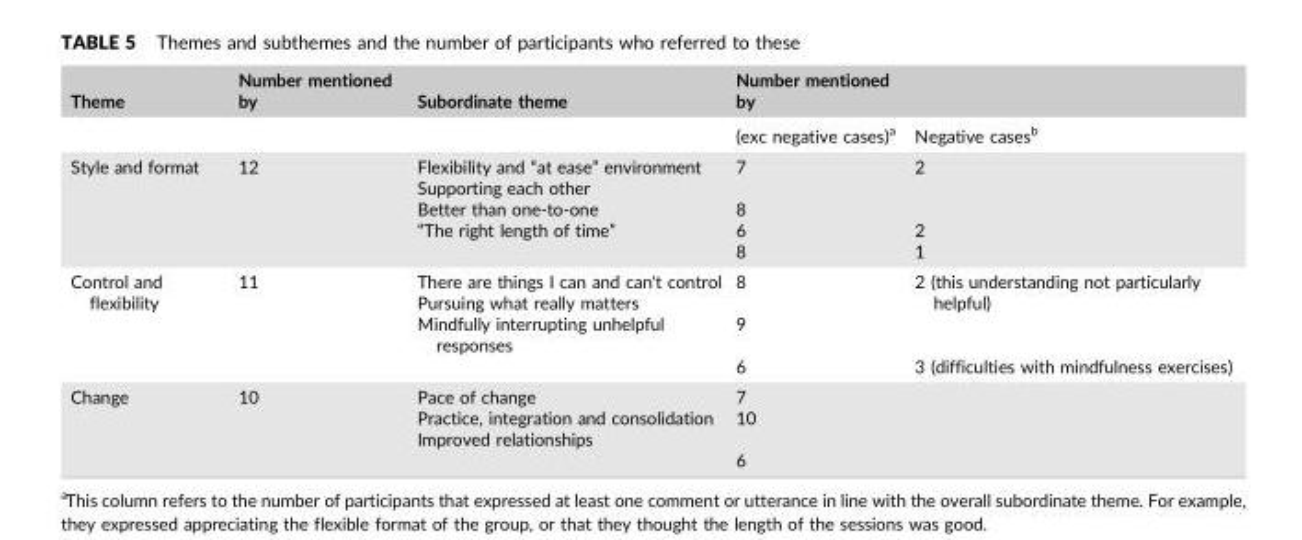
<table><thead><tr><td>Theme</td><td>Number mentioned by</td><td>Subordinate theme</td><td>Number mentioned by</td><td></td></tr></thead><tbody><tr><td></td><td></td><td></td><td>(exc negative cases)<sup>a</sup></td><td>Negative cases<sup>b</sup></td></tr><tr><td>Style and format</td><td>12</td><td>Flexibility and “at ease” environment Supporting each other Better than one‐to‐one “The right length of time”</td><td>7 8 6 8</td><td>2 2 1</td></tr><tr><td>Control and flexibility</td><td>11</td><td>There are things I can and can&#x27;t control Pursuing what really matters Mindfully interrupting unhelpful responses</td><td>8 9 6</td><td>2 (this understanding not particularly helpful) 3 (difficulties with mindfulness exercises)</td></tr><tr><td>Change</td><td>10</td><td>Pace of change Practice, integration and consolidation Improved relationships</td><td>7 10 6</td><td></td></tr></tbody></table>